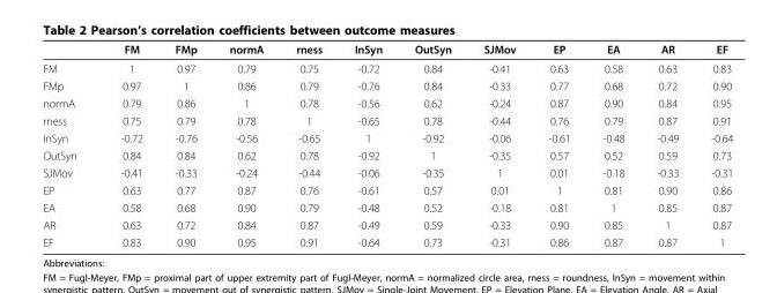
<table><thead><tr><td></td><td>FM</td><td>FMp</td><td>normA</td><td>rness</td><td>InSyn</td><td>OutSyn</td><td>SJMov</td><td>EP</td><td>EA</td><td>AR</td><td>EF</td></tr></thead><tbody><tr><td>FM</td><td>1</td><td>0.97</td><td>0.79</td><td>0.75</td><td>-0.72</td><td>0.84</td><td>-0.41</td><td>0.63</td><td>0.58</td><td>0.63</td><td>0.83</td></tr><tr><td>FMp</td><td>0.97</td><td>1</td><td>0.86</td><td>0.79</td><td>-0.76</td><td>0.84</td><td>-0.33</td><td>0.77</td><td>0.68</td><td>0.72</td><td>0.90</td></tr><tr><td>normA</td><td>0.79</td><td>0.86</td><td>1</td><td>0.78</td><td>-0.56</td><td>0.62</td><td>-0.24</td><td>0.87</td><td>0.90</td><td>0.84</td><td>0.95</td></tr><tr><td>rness</td><td>0.75</td><td>0.79</td><td>0.78</td><td>1</td><td>-0.65</td><td>0.78</td><td>-0.44</td><td>0.76</td><td>0.79</td><td>0.87</td><td>0.91</td></tr><tr><td>InSyn</td><td>-0.72</td><td>-0.76</td><td>-0.56</td><td>-0.65</td><td>1</td><td>-0.92</td><td>-0.06</td><td>-0.61</td><td>-0.48</td><td>-0.49</td><td>-0.64</td></tr><tr><td>OutSyn</td><td>0.84</td><td>0.84</td><td>0.62</td><td>0.78</td><td>-0.92</td><td>1</td><td>-0.35</td><td>0.57</td><td>0.52</td><td>0.59</td><td>0.73</td></tr><tr><td>SJMov</td><td>-0.41</td><td>-0.33</td><td>-0.24</td><td>-0.44</td><td>-0.06</td><td>-0.35</td><td>1</td><td>0.01</td><td>-0.18</td><td>-0.33</td><td>-0.31</td></tr><tr><td>EP</td><td>0.63</td><td>0.77</td><td>0.87</td><td>0.76</td><td>-0.61</td><td>0.57</td><td>0.01</td><td>1</td><td>0.81</td><td>0.90</td><td>0.86</td></tr><tr><td>EA</td><td>0.58</td><td>0.68</td><td>0.90</td><td>0.79</td><td>-0.48</td><td>0.52</td><td>-0.18</td><td>0.81</td><td>1</td><td>0.85</td><td>0.87</td></tr><tr><td>AR</td><td>0.63</td><td>0.72</td><td>0.84</td><td>0.87</td><td>-0.49</td><td>0.59</td><td>-0.33</td><td>0.90</td><td>0.85</td><td>1</td><td>0.87</td></tr><tr><td>EF</td><td>0.83</td><td>0.90</td><td>0.95</td><td>0.91</td><td>-0.64</td><td>0.73</td><td>-0.31</td><td>0.86</td><td>0.87</td><td>0.87</td><td>1</td></tr></tbody></table>